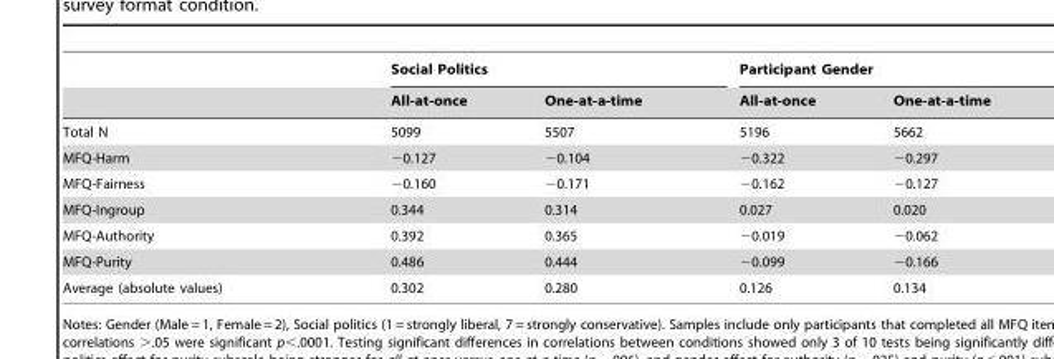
<table><thead><tr><td rowspan="2"></td><td colspan="2">Social Politics</td><td colspan="2">Participant Gender</td></tr><tr><td>All-at-once</td><td>One-at-a-time</td><td>All-at-once</td><td>One-at-a-time</td></tr></thead><tbody><tr><td>Total N</td><td>5099</td><td>5507</td><td>5196</td><td>5662</td></tr><tr><td>MFQ-Harm</td><td>−0.127</td><td>−0.104</td><td>−0.322</td><td>−0.297</td></tr><tr><td>MFQ-Fairness</td><td>−0.160</td><td>−0.171</td><td>−0.162</td><td>−0.127</td></tr><tr><td>MFQ-Ingroup</td><td>0.344</td><td>0.314</td><td>0.027</td><td>0.020</td></tr><tr><td>MFQ-Authority</td><td>0.392</td><td>0.365</td><td>−0.019</td><td>−0.062</td></tr><tr><td>MFQ-Purity</td><td>0.486</td><td>0.444</td><td>−0.099</td><td>−0.166</td></tr><tr><td>Average (absolute values)</td><td>0.302</td><td>0.280</td><td>0.126</td><td>0.134</td></tr></tbody></table>